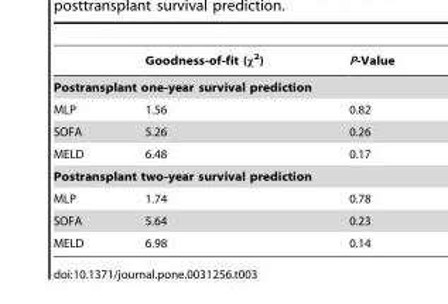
<table><thead><tr><td></td><td>Goodness-of-fit (χ2)</td><td>P-Value</td></tr></thead><tbody><tr><td colspan="3">Postransplant one-year survival prediction</td></tr><tr><td>MLP</td><td>1.56</td><td>0.82</td></tr><tr><td>SOFA</td><td>5.26</td><td>0.26</td></tr><tr><td>MELD</td><td>6.48</td><td>0.17</td></tr><tr><td colspan="3">Postransplant two-year survival prediction</td></tr><tr><td>MLP</td><td>1.74</td><td>0.78</td></tr><tr><td>SOFA</td><td>5.64</td><td>0.23</td></tr><tr><td>MELD</td><td>6.98</td><td>0.14</td></tr></tbody></table>